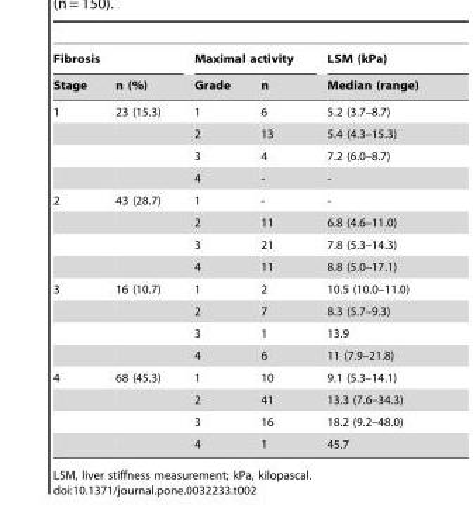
<table><thead><tr><td colspan="2">Fibrosis</td><td colspan="2">Maximal activity</td><td rowspan="2">LSM (kPa) Median (range)</td></tr><tr><td>Stage</td><td>n (%)</td><td>Grade</td><td>n</td></tr></thead><tbody><tr><td rowspan="4">1</td><td>23 (15.3)</td><td>1</td><td>6</td><td>5.2 (3.7–8.7)</td></tr><tr><td></td><td>2</td><td>13</td><td>5.4 (4.3–15.3)</td></tr><tr><td></td><td>3</td><td>4</td><td>7.2 (6.0–8.7)</td></tr><tr><td></td><td>4</td><td>-</td><td>-</td></tr><tr><td rowspan="4">2</td><td>43 (28.7)</td><td>1</td><td>-</td><td>-</td></tr><tr><td></td><td>2</td><td>11</td><td>6.8 (4.6–11.0)</td></tr><tr><td></td><td>3</td><td>21</td><td>7.8 (5.3–14.3)</td></tr><tr><td></td><td>4</td><td>11</td><td>8.8 (5.0–17.1)</td></tr><tr><td rowspan="4">3</td><td>16 (10.7)</td><td>1</td><td>2</td><td>10.5 (10.0–11.0)</td></tr><tr><td></td><td>2</td><td>7</td><td>8.3 (5.7–9.3)</td></tr><tr><td></td><td>3</td><td>1</td><td>13.9</td></tr><tr><td></td><td>4</td><td>6</td><td>11 (7.9–21.8)</td></tr><tr><td rowspan="4">4</td><td>68 (45.3)</td><td>1</td><td>10</td><td>9.1 (5.3–14.1)</td></tr><tr><td></td><td>2</td><td>41</td><td>13.3 (7.6–34.3)</td></tr><tr><td></td><td>3</td><td>16</td><td>18.2 (9.2–48.0)</td></tr><tr><td></td><td>4</td><td>1</td><td>45.7</td></tr></tbody></table>